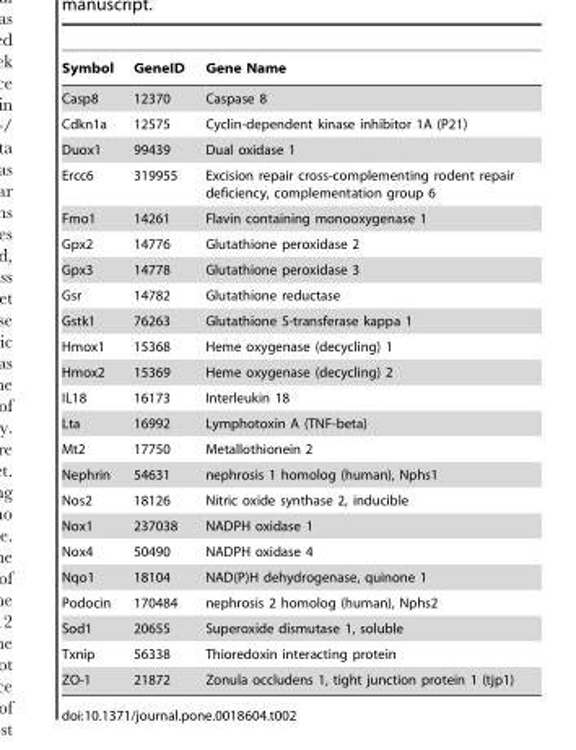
<table><thead><tr><td>Symbol</td><td>GeneID</td><td>Gene Name</td></tr></thead><tbody><tr><td>Casp8</td><td>12370</td><td>Caspase 8</td></tr><tr><td>Cdkn1a</td><td>12575</td><td>Cyclin-dependent kinase inhibitor 1A (P21)</td></tr><tr><td>Duox1</td><td>99439</td><td>Dual oxidase 1</td></tr><tr><td>Ercc6</td><td>319955</td><td>Excision repair cross-complementing rodent repair deficiency, complementation group 6</td></tr><tr><td>Fmo1</td><td>14261</td><td>Flavin containing monooxygenase 1</td></tr><tr><td>Gpx2</td><td>14776</td><td>Glutathione peroxidase 2</td></tr><tr><td>Gpx3</td><td>14778</td><td>Glutathione peroxidase 3</td></tr><tr><td>Gsr</td><td>14782</td><td>Glutathione reductase</td></tr><tr><td>Gstk1</td><td>76263</td><td>Glutathione S-transferase kappa 1</td></tr><tr><td>Hmox1</td><td>15368</td><td>Heme oxygenase (decycling) 1</td></tr><tr><td>Hmox2</td><td>15369</td><td>Heme oxygenase (decycling) 2</td></tr><tr><td>IL18</td><td>16173</td><td>Interleukin 18</td></tr><tr><td>Lta</td><td>16992</td><td>Lymphotoxin A (TNF-beta)</td></tr><tr><td>Mt2</td><td>17750</td><td>Metallothionein 2</td></tr><tr><td>Nephrin</td><td>54631</td><td>nephrosis 1 homolog (human), Nphs1</td></tr><tr><td>Nos2</td><td>18126</td><td>Nitric oxide synthase 2, inducible</td></tr><tr><td>Nox1</td><td>237038</td><td>NADPH oxidase 1</td></tr><tr><td>Nox4</td><td>50490</td><td>NADPH oxidase 4</td></tr><tr><td>Nqo1</td><td>18104</td><td>NAD(P)H dehydrogenase, quinone 1</td></tr><tr><td>Podocin</td><td>170484</td><td>nephrosis 2 homolog (human), Nphs2</td></tr><tr><td>Sod1</td><td>20655</td><td>Superoxide dismutase 1, soluble</td></tr><tr><td>Txnip</td><td>56338</td><td>Thioredoxin interacting protein</td></tr><tr><td>ZO-1</td><td>21872</td><td>Zonula occludens 1, tight junction protein 1 (tjp1)</td></tr></tbody></table>